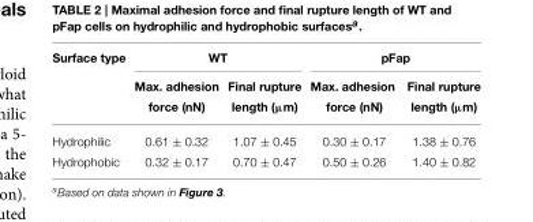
<table><thead><tr><td rowspan="2">Surface type</td><td colspan="2">WT</td><td colspan="2">pFap</td></tr><tr><td>Max. adhesion force (nN)</td><td>Final rupture length (µm)</td><td>Max. adhesion force (nN)</td><td>Final rupture length (µm)</td></tr></thead><tbody><tr><td>Hydrophilic</td><td>0.61 ± 0.32</td><td>1.07 ± 0.45</td><td>0.30 ± 0.17</td><td>1.38 ± 0.76</td></tr><tr><td>Hydrophobic</td><td>0.32 ± 0.17</td><td>0.70 ± 0.47</td><td>0.50 ± 0.26</td><td>1.40 ± 0.82</td></tr></tbody></table>